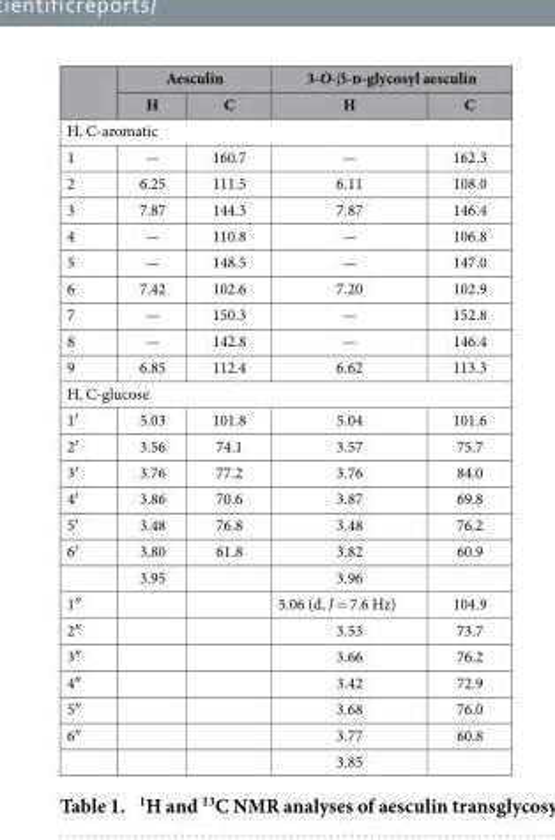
<table><thead><tr><td rowspan="2"></td><td colspan="2">Aesculin</td><td colspan="2">3-O-β-d-glycosyl aesculin</td></tr><tr><td>H</td><td>C</td><td>H</td><td>C</td></tr></thead><tbody><tr><td colspan="5">H, C-aromatic</td></tr><tr><td>1</td><td>—</td><td>160.7</td><td>—</td><td>162.3</td></tr><tr><td>2</td><td>6.25</td><td>111.5</td><td>6.11</td><td>108.0</td></tr><tr><td>3</td><td>7.87</td><td>144.3</td><td>7.87</td><td>146.4</td></tr><tr><td>4</td><td>—</td><td>110.8</td><td>—</td><td>106.8</td></tr><tr><td>5</td><td>—</td><td>148.5</td><td>—</td><td>147.0</td></tr><tr><td>6</td><td>7.42</td><td>102.6</td><td>7.20</td><td>102.9</td></tr><tr><td>7</td><td>—</td><td>150.3</td><td>—</td><td>152.8</td></tr><tr><td>8</td><td>—</td><td>142.8</td><td>—</td><td>146.4</td></tr><tr><td>9</td><td>6.85</td><td>112.4</td><td>6.62</td><td>113.3</td></tr><tr><td colspan="5">H, C-glucose</td></tr><tr><td>1′</td><td>5.03</td><td>101.8</td><td>5.04</td><td>101.6</td></tr><tr><td>2′</td><td>3.56</td><td>74.1</td><td>3.57</td><td>75.7</td></tr><tr><td>3′</td><td>3.76</td><td>77.2</td><td>3.76</td><td>84.0</td></tr><tr><td>4′</td><td>3.86</td><td>70.6</td><td>3.87</td><td>69.8</td></tr><tr><td>5′</td><td>3.48</td><td>76.8</td><td>3.48</td><td>76.2</td></tr><tr><td rowspan="2">6′</td><td>3.80</td><td>61.8</td><td>3.82</td><td>60.9</td></tr><tr><td>3.95</td><td></td><td>3.96</td><td></td></tr><tr><td>1″</td><td></td><td></td><td>5.06 (d, J = 7.6 Hz)</td><td>104.9</td></tr><tr><td>2″</td><td></td><td></td><td>3.53</td><td>73.7</td></tr><tr><td>3″</td><td></td><td></td><td>3.66</td><td>76.2</td></tr><tr><td>4″</td><td></td><td></td><td>3.42</td><td>72.9</td></tr><tr><td>5″</td><td></td><td></td><td>3.68</td><td>76.0</td></tr><tr><td rowspan="2">6″</td><td></td><td></td><td>3.77</td><td>60.8</td></tr><tr><td></td><td></td><td>3.85</td><td></td></tr></tbody></table>